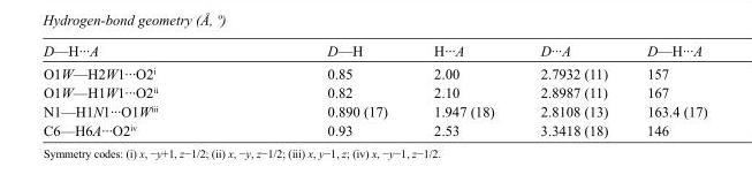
<table><tbody><tr><td>D—H···A</td><td>D—H</td><td>H···A</td><td>D···A</td><td>D—H···A</td></tr><tr><td>O1W—H2W1···O2<sup>i</sup></td><td>0.85</td><td>2.00</td><td>2.7932 (11)</td><td>157</td></tr><tr><td>O1W—H1W1···O2<sup>ii</sup></td><td>0.82</td><td>2.10</td><td>2.8987 (11)</td><td>167</td></tr><tr><td>N1—H1N1···O1W<sup>iii</sup></td><td>0.890 (17)</td><td>1.947 (18)</td><td>2.8108 (13)</td><td>163.4 (17)</td></tr><tr><td>C6—H6A···O2<sup>iv</sup></td><td>0.93</td><td>2.53</td><td>3.3418 (18)</td><td>146</td></tr></tbody></table>